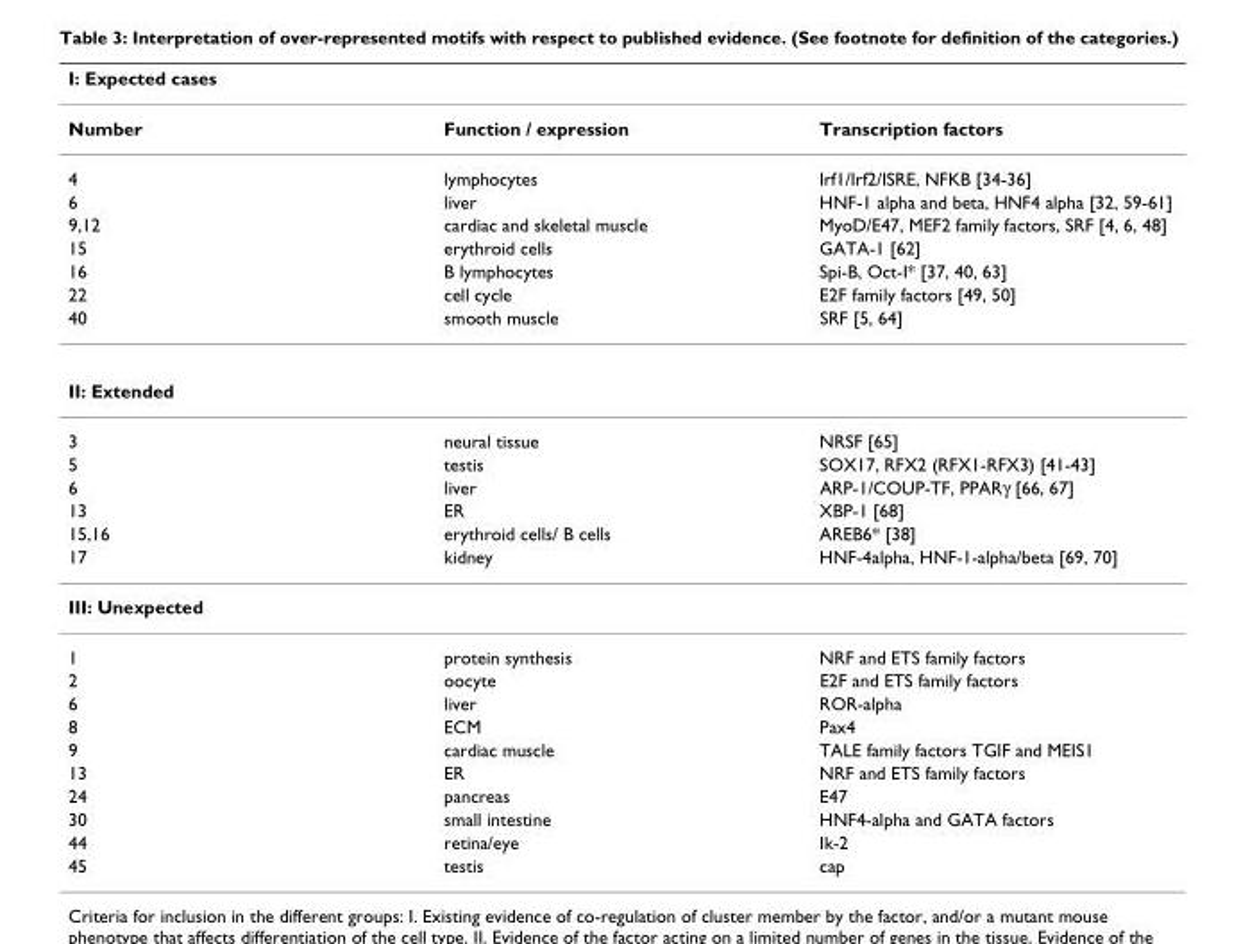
<table><thead><tr><td colspan="3">I: Expected cases</td></tr><tr><td>Number</td><td>Function / expression</td><td>Transcription factors</td></tr></thead><tbody><tr><td>4</td><td>lymphocytes</td><td>Irf1/Irf2/ISRE, NFKB [34-36]</td></tr><tr><td>6</td><td>liver</td><td>HNF-1 alpha and beta, HNF4 alpha [32, 59-61]</td></tr><tr><td>9,12</td><td>cardiac and skeletal muscle</td><td>MyoD/E47, MEF2 family factors, SRF [4, 6, 48]</td></tr><tr><td>15</td><td>erythroid cells</td><td>GATA-1 [62]</td></tr><tr><td>16</td><td>B lymphocytes</td><td>Spi-B, Oct-I* [37, 40, 63]</td></tr><tr><td>22</td><td>cell cycle</td><td>E2F family factors [49, 50]</td></tr><tr><td>40</td><td>smooth muscle</td><td>SRF [5, 64]</td></tr><tr><td colspan="3">II: Extended</td></tr><tr><td>3</td><td>neural tissue</td><td>NRSF [65]</td></tr><tr><td>5</td><td>testis</td><td>SOX17, RFX2 (RFX1-RFX3) [41-43]</td></tr><tr><td>6</td><td>liver</td><td>ARP-1/COUP-TF, PPARγ [66, 67]</td></tr><tr><td>13</td><td>ER</td><td>XBP-1 [68]</td></tr><tr><td>15,16</td><td>erythroid cells/ B cells</td><td>AREB6* [38]</td></tr><tr><td>17</td><td>kidney</td><td>HNF-4alpha, HNF-1-alpha/beta [69, 70]</td></tr><tr><td colspan="3">III: Unexpected</td></tr><tr><td>1</td><td>protein synthesis</td><td>NRF and ETS family factors</td></tr><tr><td>2</td><td>oocyte</td><td>E2F and ETS family factors</td></tr><tr><td>6</td><td>liver</td><td>ROR-alpha</td></tr><tr><td>8</td><td>ECM</td><td>Pax4</td></tr><tr><td>9</td><td>cardiac muscle</td><td>TALE family factors TGIF and MEIS1</td></tr><tr><td>13</td><td>ER</td><td>NRF and ETS family factors</td></tr><tr><td>24</td><td>pancreas</td><td>E47</td></tr><tr><td>30</td><td>small intestine</td><td>HNF4-alpha and GATA factors</td></tr><tr><td>44</td><td>retina/eye</td><td>Ik-2</td></tr><tr><td>45</td><td>testis</td><td>cap</td></tr></tbody></table>